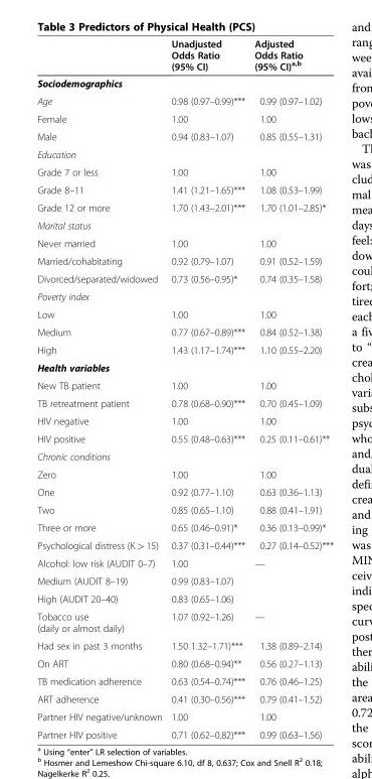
<table><thead><tr><td></td><td>Unadjusted Odds Ratio (95% CI)</td><td>Adjusted Odds Ratio (95% CI)<sup>a,b</sup></td></tr></thead><tbody><tr><td colspan="3">Sociodemographics</td></tr><tr><td>Age</td><td>0.98 (0.97–0.99)***</td><td>0.99 (0.97–1.02)</td></tr><tr><td>Female</td><td>1.00</td><td>1.00</td></tr><tr><td>Male</td><td>0.94 (0.83–1.07)</td><td>0.85 (0.55–1.31)</td></tr><tr><td colspan="3">Education</td></tr><tr><td>Grade 7 or less</td><td>1.00</td><td>1.00</td></tr><tr><td>Grade 8–11</td><td>1.41 (1.21–1.65)***</td><td>1.08 (0.53–1.99)</td></tr><tr><td>Grade 12 or more</td><td>1.70 (1.43–2.01)***</td><td>1.70 (1.01–2.85)*</td></tr><tr><td colspan="3">Marital status</td></tr><tr><td>Never married</td><td>1.00</td><td>1.00</td></tr><tr><td>Married/cohabitating</td><td>0.92 (0.79–1.07)</td><td>0.91 (0.52–1.59)</td></tr><tr><td>Divorced/separated/widowed</td><td>0.73 (0.56–0.95)*</td><td>0.74 (0.35–1.58)</td></tr><tr><td colspan="3">Poverty index</td></tr><tr><td>Low</td><td>1.00</td><td>1.00</td></tr><tr><td>Medium</td><td>0.77 (0.67–0.89)***</td><td>0.84 (0.52–1.38)</td></tr><tr><td>High</td><td>1.43 (1.17–1.74)***</td><td>1.10 (0.55–2.20)</td></tr><tr><td colspan="3">Health variables</td></tr><tr><td>New TB patient</td><td>1.00</td><td>1.00</td></tr><tr><td>TB retreatment patient</td><td>0.78 (0.68–0.90)***</td><td>0.70 (0.45–1.09)</td></tr><tr><td>HIV negative</td><td>1.00</td><td>1.00</td></tr><tr><td>HIV positive</td><td>0.55 (0.48–0.63)***</td><td>0.25 (0.11–0.61)**</td></tr><tr><td colspan="3">Chronic conditions</td></tr><tr><td>Zero</td><td>1.00</td><td>1.00</td></tr><tr><td>One</td><td>0.92 (0.77–1.10)</td><td>0.63 (0.36–1.13)</td></tr><tr><td>Two</td><td>0.85 (0.65–1.10)</td><td>0.88 (0.41–1.91)</td></tr><tr><td>Three or more</td><td>0.65 (0.46–0.91)*</td><td>0.36 (0.13–0.99)*</td></tr><tr><td>Psychological distress (K &gt; 15)</td><td>0.37 (0.31–0.44)***</td><td>0.27 (0.14–0.52)***</td></tr><tr><td>Alcohol: low risk (AUDIT 0–7)</td><td>1.00</td><td>—</td></tr><tr><td>Medium (AUDIT 8–19)</td><td>0.99 (0.83–1.07)</td><td></td></tr><tr><td>High (AUDIT 20–40)</td><td>0.83 (0.65–1.06)</td><td></td></tr><tr><td>Tobacco use (daily or almost daily)</td><td>1.07 (0.92–1.26)</td><td>—</td></tr><tr><td>Had sex in past 3 months</td><td>1.50 1.32–1.71)***</td><td>1.38 (0.89–2.14)</td></tr><tr><td>On ART</td><td>0.80 (0.68–0.94)**</td><td>0.56 (0.27–1.13)</td></tr><tr><td>TB medication adherence</td><td>0.63 (0.54–0.74)***</td><td>0.76 (0.46–1.25)</td></tr><tr><td>ART adherence</td><td>0.41 (0.30–0.56)***</td><td>0.79 (0.41–1.52)</td></tr><tr><td>Partner HIV negative/unknown</td><td>1.00</td><td>1.00</td></tr><tr><td>Partner HIV positive</td><td>0.71 (0.62–0.82)***</td><td>0.99 (0.63–1.56)</td></tr></tbody></table>